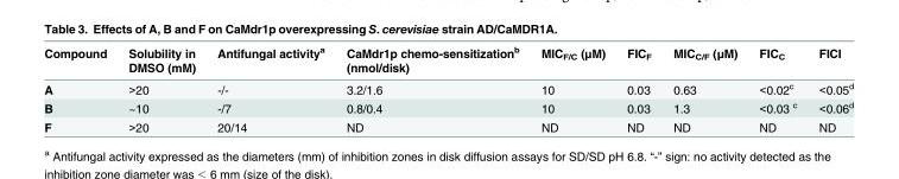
<table><thead><tr><td>Compound</td><td>Solubility in DMSO (mM)</td><td>Antifungal activity<sup>a</sup></td><td>CaMdr1p chemo-sensitization<sup>b</sup> (nmol/disk)</td><td>MIC<sub>F/C</sub> (μM)</td><td>FIC<sub>F</sub></td><td>MIC<sub>C/F</sub> (μM)</td><td>FIC<sub>C</sub></td><td>FICI</td></tr></thead><tbody><tr><td>A</td><td>&gt;20</td><td>-/-</td><td>3.2/1.6</td><td>10</td><td>0.03</td><td>0.63</td><td>&lt;0.02<sup>c</sup></td><td>&lt;0.05<sup>d</sup></td></tr><tr><td>B</td><td>~10</td><td>-/7</td><td>0.8/0.4</td><td>10</td><td>0.03</td><td>1.3</td><td>&lt;0.03 <sup>c</sup></td><td>&lt;0.06<sup>d</sup></td></tr><tr><td>F</td><td>&gt;20</td><td>20/14</td><td>ND</td><td>ND</td><td>ND</td><td>ND</td><td>ND</td><td>ND</td></tr></tbody></table>